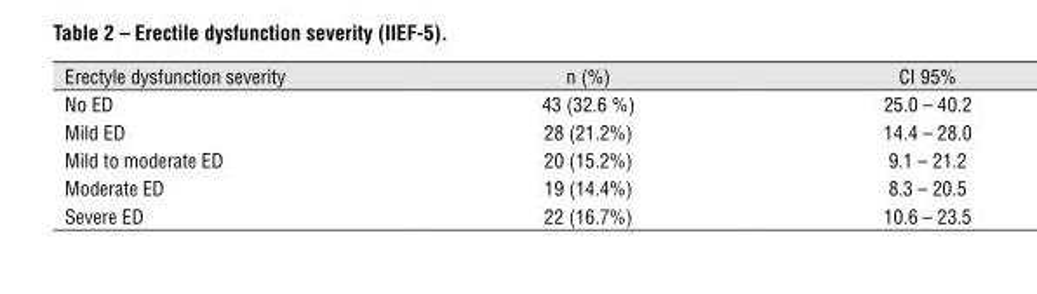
<table><thead><tr><td>Erectyle dysfunction severity</td><td>n (%)</td><td>CI 95%</td></tr></thead><tbody><tr><td>No ED</td><td>43 (32.6 %)</td><td>25.0 – 40.2</td></tr><tr><td>Mild ED</td><td>28 (21.2%)</td><td>14.4 – 28.0</td></tr><tr><td>Mild to moderate ED</td><td>20 (15.2%)</td><td>9.1 – 21.2</td></tr><tr><td>Moderate ED</td><td>19 (14.4%)</td><td>8.3 – 20.5</td></tr><tr><td>Severe ED</td><td>22 (16.7%)</td><td>10.6 – 23.5</td></tr></tbody></table>